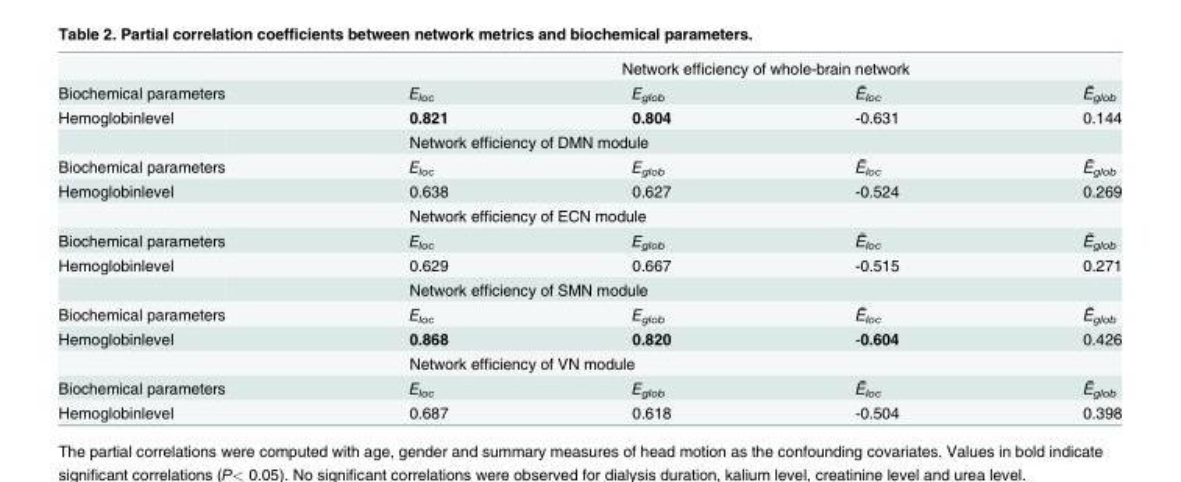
<table><thead><tr><td rowspan="2">Biochemical parameters</td><td colspan="4">Network efficiency of whole-brain network</td></tr><tr><td>E<sub>loc</sub></td><td>E<sub>glob</sub></td><td>Ẽ<sub>loc</sub></td><td>Ẽ<sub>glob</sub></td></tr></thead><tbody><tr><td rowspan="2">Hemoglobinlevel</td><td>0.821</td><td>0.804</td><td>-0.631</td><td>0.144</td></tr><tr><td colspan="4">Network efficiency of DMN module</td></tr><tr><td>Biochemical parameters</td><td>E<sub>loc</sub></td><td>E<sub>glob</sub></td><td>Ẽ<sub>loc</sub></td><td>Ẽ<sub>glob</sub></td></tr><tr><td rowspan="2">Hemoglobinlevel</td><td>0.638</td><td>0.627</td><td>-0.524</td><td>0.269</td></tr><tr><td colspan="4">Network efficiency of ECN module</td></tr><tr><td>Biochemical parameters</td><td>E<sub>loc</sub></td><td>E<sub>glob</sub></td><td>Ẽ<sub>loc</sub></td><td>Ẽ<sub>glob</sub></td></tr><tr><td rowspan="2">Hemoglobinlevel</td><td>0.629</td><td>0.667</td><td>-0.515</td><td>0.271</td></tr><tr><td colspan="4">Network efficiency of SMN module</td></tr><tr><td>Biochemical parameters</td><td>E<sub>loc</sub></td><td>E<sub>glob</sub></td><td>Ẽ<sub>loc</sub></td><td>Ẽ<sub>glob</sub></td></tr><tr><td rowspan="2">Hemoglobinlevel</td><td>0.868</td><td>0.820</td><td>-0.604</td><td>0.426</td></tr><tr><td colspan="4">Network efficiency of VN module</td></tr><tr><td>Biochemical parameters</td><td>E<sub>loc</sub></td><td>E<sub>glob</sub></td><td>Ẽ<sub>loc</sub></td><td>Ẽ<sub>glob</sub></td></tr><tr><td>Hemoglobinlevel</td><td>0.687</td><td>0.618</td><td>-0.504</td><td>0.398</td></tr></tbody></table>